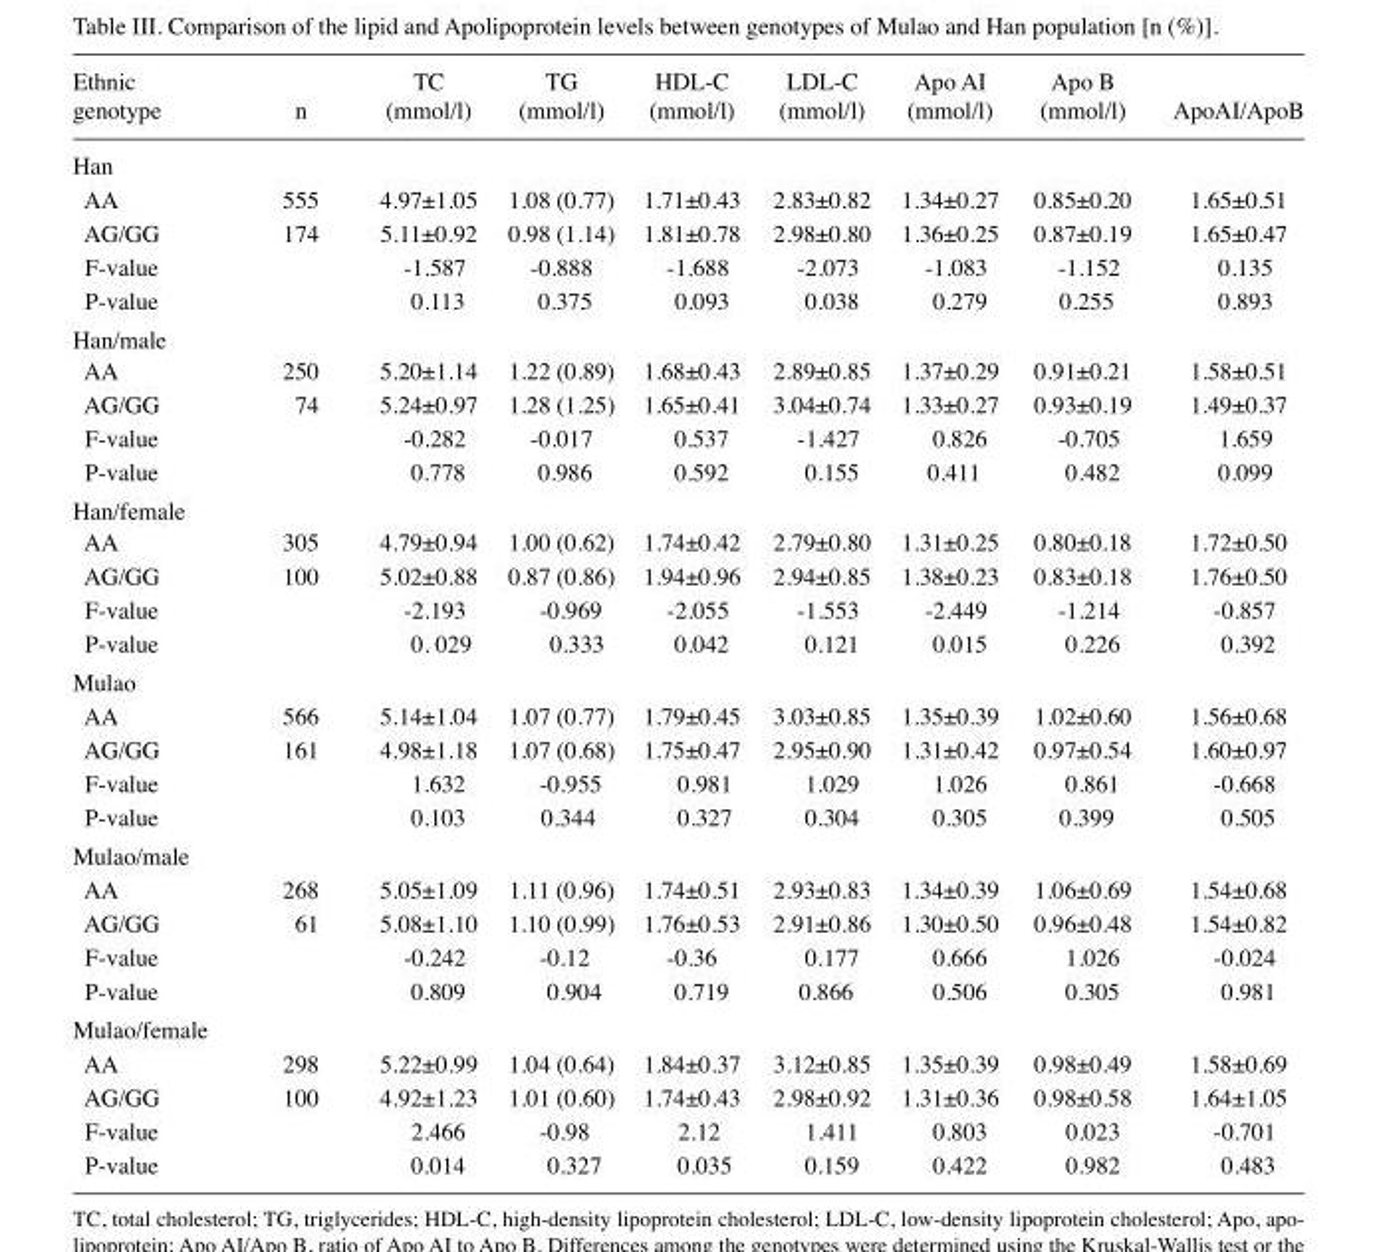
<table><thead><tr><td>Ethnic genotype</td><td>n</td><td>TC (mmol/l)</td><td>TG (mmol/l)</td><td>HDL-C (mmol/l)</td><td>LDL-C (mmol/l)</td><td>Apo AI (mmol/l)</td><td>Apo B (mmol/l)</td><td>ApoAI/ApoB</td></tr></thead><tbody><tr><td colspan="9">Han</td></tr><tr><td>AA</td><td>555</td><td>4.97±1.05</td><td>1.08 (0.77)</td><td>1.71±0.43</td><td>2.83±0.82</td><td>1.34±0.27</td><td>0.85±0.20</td><td>1.65±0.51</td></tr><tr><td>AG/GG</td><td>174</td><td>5.11±0.92</td><td>0.98 (1.14)</td><td>1.81±0.78</td><td>2.98±0.80</td><td>1.36±0.25</td><td>0.87±0.19</td><td>1.65±0.47</td></tr><tr><td>F‑value</td><td></td><td>-1.587</td><td>-0.888</td><td>-1.688</td><td>-2.073</td><td>-1.083</td><td>-1.152</td><td>0.135</td></tr><tr><td>P-value</td><td></td><td>0.113</td><td>0.375</td><td>0.093</td><td>0.038</td><td>0.279</td><td>0.255</td><td>0.893</td></tr><tr><td colspan="9">Han/male</td></tr><tr><td>AA</td><td>250</td><td>5.20±1.14</td><td>1.22 (0.89)</td><td>1.68±0.43</td><td>2.89±0.85</td><td>1.37±0.29</td><td>0.91±0.21</td><td>1.58±0.51</td></tr><tr><td>AG/GG</td><td>74</td><td>5.24±0.97</td><td>1.28 (1.25)</td><td>1.65±0.41</td><td>3.04±0.74</td><td>1.33±0.27</td><td>0.93±0.19</td><td>1.49±0.37</td></tr><tr><td>F‑value</td><td></td><td>-0.282</td><td>-0.017</td><td>0.537</td><td>-1.427</td><td>0.826</td><td>-0.705</td><td>1.659</td></tr><tr><td>P-value</td><td></td><td>0.778</td><td>0.986</td><td>0.592</td><td>0.155</td><td>0.411</td><td>0.482</td><td>0.099</td></tr><tr><td colspan="9">Han/female</td></tr><tr><td>AA</td><td>305</td><td>4.79±0.94</td><td>1.00 (0.62)</td><td>1.74±0.42</td><td>2.79±0.80</td><td>1.31±0.25</td><td>0.80±0.18</td><td>1.72±0.50</td></tr><tr><td>AG/GG</td><td>100</td><td>5.02±0.88</td><td>0.87 (0.86)</td><td>1.94±0.96</td><td>2.94±0.85</td><td>1.38±0.23</td><td>0.83±0.18</td><td>1.76±0.50</td></tr><tr><td>F‑value</td><td></td><td>-2.193</td><td>-0.969</td><td>-2.055</td><td>-1.553</td><td>-2.449</td><td>-1.214</td><td>-0.857</td></tr><tr><td>P-value</td><td></td><td>0. 029</td><td>0.333</td><td>0.042</td><td>0.121</td><td>0.015</td><td>0.226</td><td>0.392</td></tr><tr><td colspan="9">Mulao</td></tr><tr><td>AA</td><td>566</td><td>5.14±1.04</td><td>1.07 (0.77)</td><td>1.79±0.45</td><td>3.03±0.85</td><td>1.35±0.39</td><td>1.02±0.60</td><td>1.56±0.68</td></tr><tr><td>AG/GG</td><td>161</td><td>4.98±1.18</td><td>1.07 (0.68)</td><td>1.75±0.47</td><td>2.95±0.90</td><td>1.31±0.42</td><td>0.97±0.54</td><td>1.60±0.97</td></tr><tr><td>F‑value</td><td></td><td>1.632</td><td>-0.955</td><td>0.981</td><td>1.029</td><td>1.026</td><td>0.861</td><td>-0.668</td></tr><tr><td>P-value</td><td></td><td>0.103</td><td>0.344</td><td>0.327</td><td>0.304</td><td>0.305</td><td>0.399</td><td>0.505</td></tr><tr><td colspan="9">Mulao/male</td></tr><tr><td>AA</td><td>268</td><td>5.05±1.09</td><td>1.11 (0.96)</td><td>1.74±0.51</td><td>2.93±0.83</td><td>1.34±0.39</td><td>1.06±0.69</td><td>1.54±0.68</td></tr><tr><td>AG/GG</td><td>61</td><td>5.08±1.10</td><td>1.10 (0.99)</td><td>1.76±0.53</td><td>2.91±0.86</td><td>1.30±0.50</td><td>0.96±0.48</td><td>1.54±0.82</td></tr><tr><td>F‑value</td><td></td><td>-0.242</td><td>-0.12</td><td>-0.36</td><td>0.177</td><td>0.666</td><td>1.026</td><td>-0.024</td></tr><tr><td>P-value</td><td></td><td>0.809</td><td>0.904</td><td>0.719</td><td>0.866</td><td>0.506</td><td>0.305</td><td>0.981</td></tr><tr><td colspan="9">Mulao/female</td></tr><tr><td>AA</td><td>298</td><td>5.22±0.99</td><td>1.04 (0.64)</td><td>1.84±0.37</td><td>3.12±0.85</td><td>1.35±0.39</td><td>0.98±0.49</td><td>1.58±0.69</td></tr><tr><td>AG/GG</td><td>100</td><td>4.92±1.23</td><td>1.01 (0.60)</td><td>1.74±0.43</td><td>2.98±0.92</td><td>1.31±0.36</td><td>0.98±0.58</td><td>1.64±1.05</td></tr><tr><td>F‑value</td><td></td><td>2.466</td><td>-0.98</td><td>2.12</td><td>1.411</td><td>0.803</td><td>0.023</td><td>-0.701</td></tr><tr><td>P-value</td><td></td><td>0.014</td><td>0.327</td><td>0.035</td><td>0.159</td><td>0.422</td><td>0.982</td><td>0.483</td></tr></tbody></table>